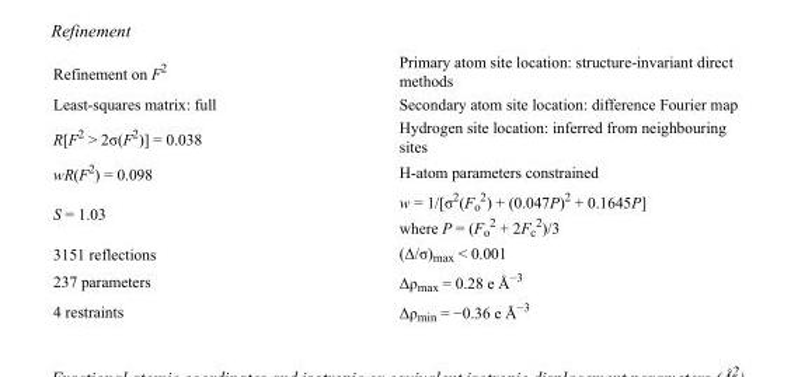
<table><tbody><tr><td>Refinement on F<sup>2</sup></td><td>Primary atom site location: structure-invariant direct methods</td></tr><tr><td>Least-squares matrix: full</td><td>Secondary atom site location: difference Fourier map</td></tr><tr><td>R[F<sup>2</sup> &gt; 2σ(F<sup>2</sup>)] = 0.038</td><td>Hydrogen site location: inferred from neighbouring sites</td></tr><tr><td>wR(F<sup>2</sup>) = 0.098</td><td>H-atom parameters constrained</td></tr><tr><td>S = 1.03</td><td>w = 1/[σ<sup>2</sup>(F<sub>o</sub> <sup>2</sup>) + (0.047P)<sup>2</sup> + 0.1645P] where P = (F<sub>o</sub> <sup>2</sup> + 2F<sub>c</sub> <sup>2</sup>)/3</td></tr><tr><td>3151 reflections</td><td>(Δ/σ)<sub>max</sub> &lt; 0.001</td></tr><tr><td>237 parameters</td><td>Δρ<sub>max</sub> = 0.28 e Å<sup>−3</sup></td></tr><tr><td>4 restraints</td><td>Δρ<sub>min</sub> = −0.36 e Å<sup>−3</sup></td></tr></tbody></table>